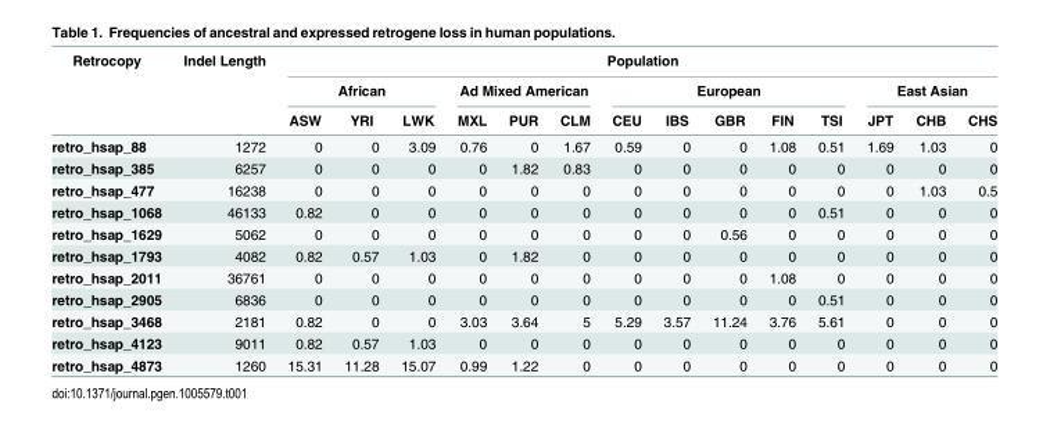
<table><thead><tr><td rowspan="3">Retrocopy</td><td rowspan="3">Indel Length</td><td colspan="14">Population</td></tr><tr><td colspan="3">African</td><td colspan="3">Ad Mixed American</td><td colspan="5">European</td><td colspan="3">East Asian</td></tr><tr><td>ASW</td><td>YRI</td><td>LWK</td><td>MXL</td><td>PUR</td><td>CLM</td><td>CEU</td><td>IBS</td><td>GBR</td><td>FIN</td><td>TSI</td><td>JPT</td><td>CHB</td><td>CHS</td></tr></thead><tbody><tr><td>retro_hsap_88</td><td>1272</td><td>0</td><td>0</td><td>3.09</td><td>0.76</td><td>0</td><td>1.67</td><td>0.59</td><td>0</td><td>0</td><td>1.08</td><td>0.51</td><td>1.69</td><td>1.03</td><td>0</td></tr><tr><td>retro_hsap_385</td><td>6257</td><td>0</td><td>0</td><td>0</td><td>0</td><td>1.82</td><td>0.83</td><td>0</td><td>0</td><td>0</td><td>0</td><td>0</td><td>0</td><td>0</td><td>0</td></tr><tr><td>retro_hsap_477</td><td>16238</td><td>0</td><td>0</td><td>0</td><td>0</td><td>0</td><td>0</td><td>0</td><td>0</td><td>0</td><td>0</td><td>0</td><td>0</td><td>1.03</td><td>0.5</td></tr><tr><td>retro_hsap_1068</td><td>46133</td><td>0.82</td><td>0</td><td>0</td><td>0</td><td>0</td><td>0</td><td>0</td><td>0</td><td>0</td><td>0</td><td>0.51</td><td>0</td><td>0</td><td>0</td></tr><tr><td>retro_hsap_1629</td><td>5062</td><td>0</td><td>0</td><td>0</td><td>0</td><td>0</td><td>0</td><td>0</td><td>0</td><td>0.56</td><td>0</td><td>0</td><td>0</td><td>0</td><td>0</td></tr><tr><td>retro_hsap_1793</td><td>4082</td><td>0.82</td><td>0.57</td><td>1.03</td><td>0</td><td>1.82</td><td>0</td><td>0</td><td>0</td><td>0</td><td>0</td><td>0</td><td>0</td><td>0</td><td>0</td></tr><tr><td>retro_hsap_2011</td><td>36761</td><td>0</td><td>0</td><td>0</td><td>0</td><td>0</td><td>0</td><td>0</td><td>0</td><td>0</td><td>1.08</td><td>0</td><td>0</td><td>0</td><td>0</td></tr><tr><td>retro_hsap_2905</td><td>6836</td><td>0</td><td>0</td><td>0</td><td>0</td><td>0</td><td>0</td><td>0</td><td>0</td><td>0</td><td>0</td><td>0.51</td><td>0</td><td>0</td><td>0</td></tr><tr><td>retro_hsap_3468</td><td>2181</td><td>0.82</td><td>0</td><td>0</td><td>3.03</td><td>3.64</td><td>5</td><td>5.29</td><td>3.57</td><td>11.24</td><td>3.76</td><td>5.61</td><td>0</td><td>0</td><td>0</td></tr><tr><td>retro_hsap_4123</td><td>9011</td><td>0.82</td><td>0.57</td><td>1.03</td><td>0</td><td>0</td><td>0</td><td>0</td><td>0</td><td>0</td><td>0</td><td>0</td><td>0</td><td>0</td><td>0</td></tr><tr><td>retro_hsap_4873</td><td>1260</td><td>15.31</td><td>11.28</td><td>15.07</td><td>0.99</td><td>1.22</td><td>0</td><td>0</td><td>0</td><td>0</td><td>0</td><td>0</td><td>0</td><td>0</td><td>0</td></tr></tbody></table>